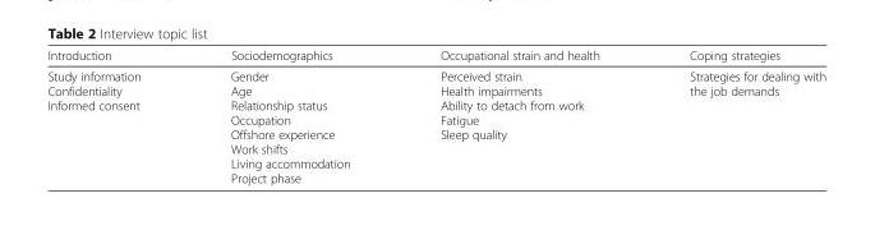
<table><thead><tr><td>Introduction</td><td>Sociodemographics</td><td>Occupational strain and health</td><td>Coping strategies</td></tr></thead><tbody><tr><td>Study information Confidentiality Informed consent</td><td>Gender Age Relationship status Occupation Offshore experience Work shifts Living accommodation Project phase</td><td>Perceived strain Health impairments Ability to detach from work Fatigue Sleep quality</td><td>Strategies for dealing with the job demands</td></tr></tbody></table>